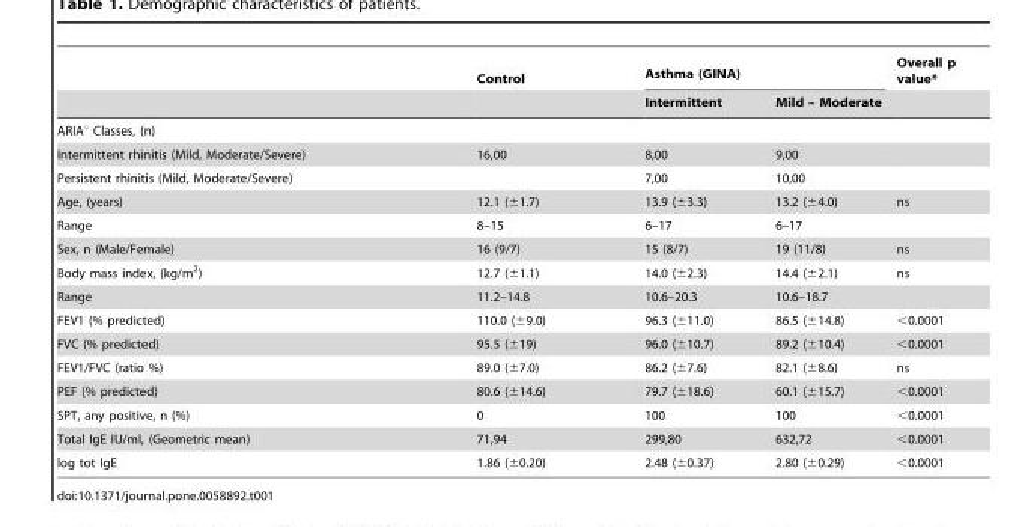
<table><thead><tr><td rowspan="2"></td><td rowspan="2">Control</td><td colspan="2">Asthma (GINA)</td><td rowspan="2">Overall p value*</td></tr><tr><td>Intermittent</td><td>Mild – Moderate</td></tr></thead><tbody><tr><td colspan="5">ARIA° Classes, (n)</td></tr><tr><td>Intermittent rhinitis (Mild, Moderate/Severe)</td><td>16,00</td><td>8,00</td><td>9,00</td><td></td></tr><tr><td>Persistent rhinitis (Mild, Moderate/Severe)</td><td></td><td>7,00</td><td>10,00</td><td></td></tr><tr><td>Age, (years)</td><td>12.1 (±1.7)</td><td>13.9 (±3.3)</td><td>13.2 (±4.0)</td><td>ns</td></tr><tr><td>Range</td><td>8–15</td><td>6–17</td><td>6–17</td><td></td></tr><tr><td>Sex, n (Male/Female)</td><td>16 (9/7)</td><td>15 (8/7)</td><td>19 (11/8)</td><td>ns</td></tr><tr><td>Body mass index, (kg/m<sup>2</sup>)</td><td>12.7 (±1.1)</td><td>14.0 (±2.3)</td><td>14.4 (±2.1)</td><td>ns</td></tr><tr><td>Range</td><td>11.2–14.8</td><td>10.6–20.3</td><td>10.6–18.7</td><td></td></tr><tr><td>FEV1 (% predicted)</td><td>110.0 (±9.0)</td><td>96.3 (±11.0)</td><td>86.5 (±14.8)</td><td>&lt;0.0001</td></tr><tr><td>FVC (% predicted)</td><td>95.5 (±19)</td><td>96.0 (±10.7)</td><td>89.2 (±10.4)</td><td>&lt;0.0001</td></tr><tr><td>FEV1/FVC (ratio %)</td><td>89.0 (±7.0)</td><td>86.2 (±7.6)</td><td>82.1 (±8.6)</td><td>ns</td></tr><tr><td>PEF (% predicted)</td><td>80.6 (±14.6)</td><td>79.7 (±18.6)</td><td>60.1 (±15.7)</td><td>&lt;0.0001</td></tr><tr><td>SPT, any positive, n (%)</td><td>0</td><td>100</td><td>100</td><td>&lt;0.0001</td></tr><tr><td>Total IgE IU/ml, (Geometric mean)</td><td>71,94</td><td>299,80</td><td>632,72</td><td>&lt;0.0001</td></tr><tr><td>log tot IgE</td><td>1.86 (±0.20)</td><td>2.48 (±0.37)</td><td>2.80 (±0.29)</td><td>&lt;0.0001</td></tr></tbody></table>